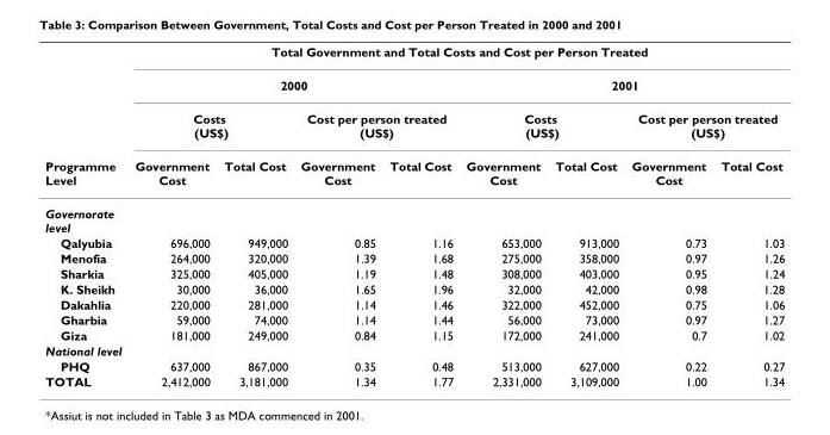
<table><thead><tr><td rowspan="4">Programme Level</td><td colspan="8">Total Government and Total Costs and Cost per Person Treated</td></tr><tr><td colspan="4">2000</td><td colspan="4">2001</td></tr><tr><td colspan="2">Costs (US$)</td><td colspan="2">Cost per person treated (US$)</td><td colspan="2">Costs (US$)</td><td colspan="2">Cost per person treated (US$)</td></tr><tr><td>Government Cost</td><td>Total Cost</td><td>Government Cost</td><td>Total Cost</td><td>Government Cost</td><td>Total Cost</td><td>Government Cost</td><td>Total Cost</td></tr></thead><tbody><tr><td colspan="9">Governorate level</td></tr><tr><td>Qalyubia</td><td>696,000</td><td>949,000</td><td>0.85</td><td>1.16</td><td>653,000</td><td>913,000</td><td>0.73</td><td>1.03</td></tr><tr><td>Menofia</td><td>264,000</td><td>320,000</td><td>1.39</td><td>1.68</td><td>275,000</td><td>358,000</td><td>0.97</td><td>1.26</td></tr><tr><td>Sharkia</td><td>325,000</td><td>405,000</td><td>1.19</td><td>1.48</td><td>308,000</td><td>403,000</td><td>0.95</td><td>1.24</td></tr><tr><td>K. Sheikh</td><td>30,000</td><td>36,000</td><td>1.65</td><td>1.96</td><td>32,000</td><td>42,000</td><td>0.98</td><td>1.28</td></tr><tr><td>Dakahlia</td><td>220,000</td><td>281,000</td><td>1.14</td><td>1.46</td><td>322,000</td><td>452,000</td><td>0.75</td><td>1.06</td></tr><tr><td>Gharbia</td><td>59,000</td><td>74,000</td><td>1.14</td><td>1.44</td><td>56,000</td><td>73,000</td><td>0.97</td><td>1.27</td></tr><tr><td>Giza</td><td>181,000</td><td>249,000</td><td>0.84</td><td>1.15</td><td>172,000</td><td>241,000</td><td>0.7</td><td>1.02</td></tr><tr><td colspan="9">National level</td></tr><tr><td>PHQ</td><td>637,000</td><td>867,000</td><td>0.35</td><td>0.48</td><td>513,000</td><td>627,000</td><td>0.22</td><td>0.27</td></tr><tr><td>TOTAL</td><td>2,412,000</td><td>3,181,000</td><td>1.34</td><td>1.77</td><td>2,331,000</td><td>3,109,000</td><td>1.00</td><td>1.34</td></tr></tbody></table>